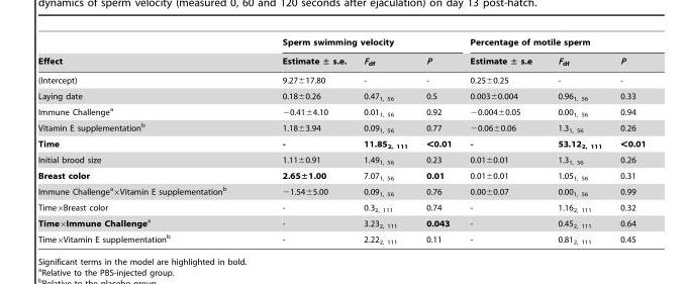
<table><thead><tr><td rowspan="2">Effect</td><td colspan="3">Sperm swimming velocity</td><td colspan="3">Percentage of motile sperm</td></tr><tr><td>Estimate ± s.e.</td><td>F<sub>df</sub></td><td>P</td><td>Estimate ± s.e</td><td>F<sub>df</sub></td><td>P</td></tr></thead><tbody><tr><td>(Intercept)</td><td>9.27±17.80</td><td>-</td><td>-</td><td>0.25±0.25</td><td>-</td><td>-</td></tr><tr><td>Laying date</td><td>0.18±0.26</td><td>0.47<sub>1, 56</sub></td><td>0.5</td><td>0.003±0.004</td><td>0.96<sub>1, 56</sub></td><td>0.33</td></tr><tr><td>Immune Challenge<sup>a</sup></td><td>−0.41±4.10</td><td>0.01<sub>1, 56</sub></td><td>0.92</td><td>−0.004±0.05</td><td>0.00<sub>1, 56</sub></td><td>0.94</td></tr><tr><td>Vitamin E supplementation<sup>b</sup></td><td>1.18±3.94</td><td>0.09<sub>1, 56</sub></td><td>0.77</td><td>−0.06±0.06</td><td>1.3<sub>1, 56</sub></td><td>0.26</td></tr><tr><td>Time</td><td>-</td><td>11.85<sub>2, 111</sub></td><td>&lt;0.01</td><td>-</td><td>53.12<sub>2, 111</sub></td><td>&lt;0.01</td></tr><tr><td>Initial brood size</td><td>1.11±0.91</td><td>1.49<sub>1, 56</sub></td><td>0.23</td><td>0.01±0.01</td><td>1.3<sub>1, 56</sub></td><td>0.26</td></tr><tr><td>Breast color</td><td>2.65±1.00</td><td>7.07<sub>1, 56</sub></td><td>0.01</td><td>0.01±0.01</td><td>1.05<sub>1, 56</sub></td><td>0.31</td></tr><tr><td>Immune Challenge<sup>a</sup>×Vitamin E supplementation<sup>b</sup></td><td>−1.54±5.00</td><td>0.09<sub>1, 56</sub></td><td>0.76</td><td>0.00±0.07</td><td>0.00<sub>1, 56</sub></td><td>0.99</td></tr><tr><td>Time×Breast color</td><td>-</td><td>0.3<sub>2, 111</sub></td><td>0.74</td><td>-</td><td>1.16<sub>2, 111</sub></td><td>0.32</td></tr><tr><td>Time×Immune Challengea</td><td>-</td><td>3.23<sub>2, 111</sub></td><td>0.043</td><td>-</td><td>0.45<sub>2, 111</sub></td><td>0.64</td></tr><tr><td>Time×Vitamin E supplementation<sup>b</sup></td><td>-</td><td>2.22<sub>2, 111</sub></td><td>0.11</td><td>-</td><td>0.81<sub>2, 111</sub></td><td>0.45</td></tr></tbody></table>